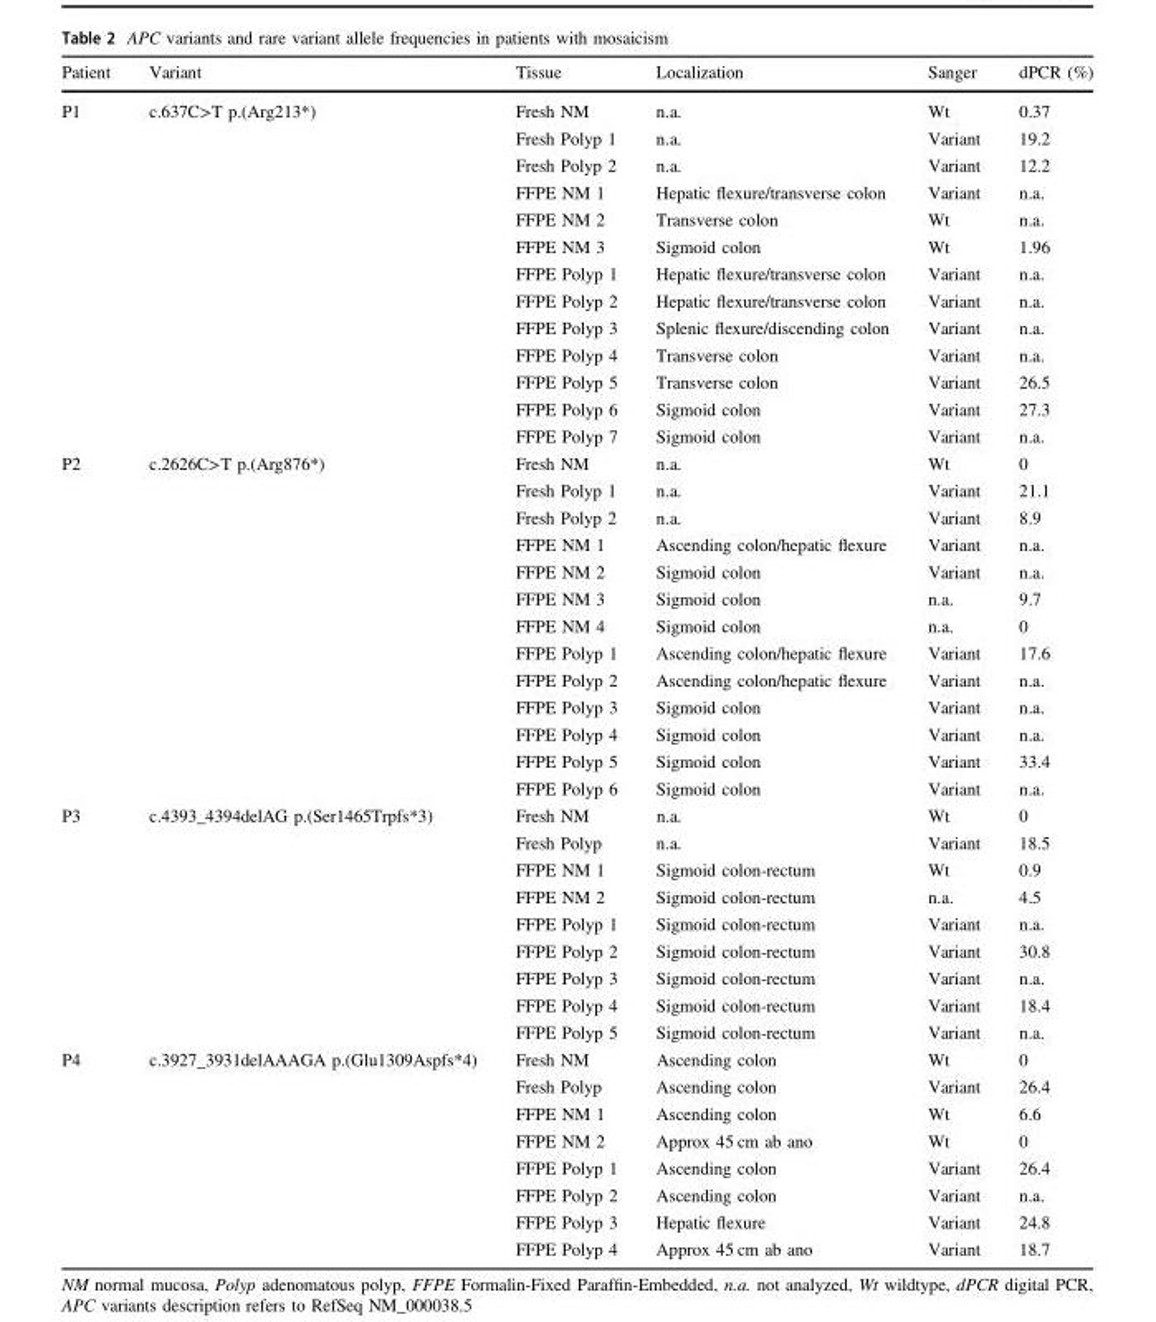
<table><thead><tr><td>Patient</td><td>Variant</td><td>Tissue</td><td>Localization</td><td>Sanger</td><td>dPCR (%)</td></tr></thead><tbody><tr><td rowspan="13">P1</td><td rowspan="13">c.637C&gt;T p.(Arg213*)</td><td>Fresh NM</td><td>n.a.</td><td>Wt</td><td>0.37</td></tr><tr><td>Fresh Polyp 1</td><td>n.a.</td><td>Variant</td><td>19.2</td></tr><tr><td>Fresh Polyp 2</td><td>n.a.</td><td>Variant</td><td>12.2</td></tr><tr><td>FFPE NM 1</td><td>Hepatic flexure/transverse colon</td><td>Variant</td><td>n.a.</td></tr><tr><td>FFPE NM 2</td><td>Transverse colon</td><td>Wt</td><td>n.a.</td></tr><tr><td>FFPE NM 3</td><td>Sigmoid colon</td><td>Wt</td><td>1.96</td></tr><tr><td>FFPE Polyp 1</td><td>Hepatic flexure/transverse colon</td><td>Variant</td><td>n.a.</td></tr><tr><td>FFPE Polyp 2</td><td>Hepatic flexure/transverse colon</td><td>Variant</td><td>n.a.</td></tr><tr><td>FFPE Polyp 3</td><td>Splenic flexure/discending colon</td><td>Variant</td><td>n.a.</td></tr><tr><td>FFPE Polyp 4</td><td>Transverse colon</td><td>Variant</td><td>n.a.</td></tr><tr><td>FFPE Polyp 5</td><td>Transverse colon</td><td>Variant</td><td>26.5</td></tr><tr><td>FFPE Polyp 6</td><td>Sigmoid colon</td><td>Variant</td><td>27.3</td></tr><tr><td>FFPE Polyp 7</td><td>Sigmoid colon</td><td>Variant</td><td>n.a.</td></tr><tr><td rowspan="13">P2</td><td rowspan="13">c.2626C&gt;T p.(Arg876*)</td><td>Fresh NM</td><td>n.a.</td><td>Wt</td><td>0</td></tr><tr><td>Fresh Polyp 1</td><td>n.a.</td><td>Variant</td><td>21.1</td></tr><tr><td>Fresh Polyp 2</td><td>n.a.</td><td>Variant</td><td>8.9</td></tr><tr><td>FFPE NM 1</td><td>Ascending colon/hepatic flexure</td><td>Variant</td><td>n.a.</td></tr><tr><td>FFPE NM 2</td><td>Sigmoid colon</td><td>Variant</td><td>n.a.</td></tr><tr><td>FFPE NM 3</td><td>Sigmoid colon</td><td>n.a.</td><td>9.7</td></tr><tr><td>FFPE NM 4</td><td>Sigmoid colon</td><td>n.a.</td><td>0</td></tr><tr><td>FFPE Polyp 1</td><td>Ascending colon/hepatic flexure</td><td>Variant</td><td>17.6</td></tr><tr><td>FFPE Polyp 2</td><td>Ascending colon/hepatic flexure</td><td>Variant</td><td>n.a.</td></tr><tr><td>FFPE Polyp 3</td><td>Sigmoid colon</td><td>Variant</td><td>n.a.</td></tr><tr><td>FFPE Polyp 4</td><td>Sigmoid colon</td><td>Variant</td><td>n.a.</td></tr><tr><td>FFPE Polyp 5</td><td>Sigmoid colon</td><td>Variant</td><td>33.4</td></tr><tr><td>FFPE Polyp 6</td><td>Sigmoid colon</td><td>Variant</td><td>n.a.</td></tr><tr><td rowspan="9">P3</td><td rowspan="9">c.4393_4394delAG p.(Ser1465Trpfs*3)</td><td>Fresh NM</td><td>n.a.</td><td>Wt</td><td>0</td></tr><tr><td>Fresh Polyp</td><td>n.a.</td><td>Variant</td><td>18.5</td></tr><tr><td>FFPE NM 1</td><td>Sigmoid colon-rectum</td><td>Wt</td><td>0.9</td></tr><tr><td>FFPE NM 2</td><td>Sigmoid colon-rectum</td><td>n.a.</td><td>4.5</td></tr><tr><td>FFPE Polyp 1</td><td>Sigmoid colon-rectum</td><td>Variant</td><td>n.a.</td></tr><tr><td>FFPE Polyp 2</td><td>Sigmoid colon-rectum</td><td>Variant</td><td>30.8</td></tr><tr><td>FFPE Polyp 3</td><td>Sigmoid colon-rectum</td><td>Variant</td><td>n.a.</td></tr><tr><td>FFPE Polyp 4</td><td>Sigmoid colon-rectum</td><td>Variant</td><td>18.4</td></tr><tr><td>FFPE Polyp 5</td><td>Sigmoid colon-rectum</td><td>Variant</td><td>n.a.</td></tr><tr><td rowspan="8">P4</td><td rowspan="8">c.3927_3931delAAAGA p.(Glu1309Aspfs*4)</td><td>Fresh NM</td><td>Ascending colon</td><td>Wt</td><td>0</td></tr><tr><td>Fresh Polyp</td><td>Ascending colon</td><td>Variant</td><td>26.4</td></tr><tr><td>FFPE NM 1</td><td>Ascending colon</td><td>Wt</td><td>6.6</td></tr><tr><td>FFPE NM 2</td><td>Approx 45 cm ab ano</td><td>Wt</td><td>0</td></tr><tr><td>FFPE Polyp 1</td><td>Ascending colon</td><td>Variant</td><td>26.4</td></tr><tr><td>FFPE Polyp 2</td><td>Ascending colon</td><td>Variant</td><td>n.a.</td></tr><tr><td>FFPE Polyp 3</td><td>Hepatic flexure</td><td>Variant</td><td>24.8</td></tr><tr><td>FFPE Polyp 4</td><td>Approx 45 cm ab ano</td><td>Variant</td><td>18.7</td></tr></tbody></table>